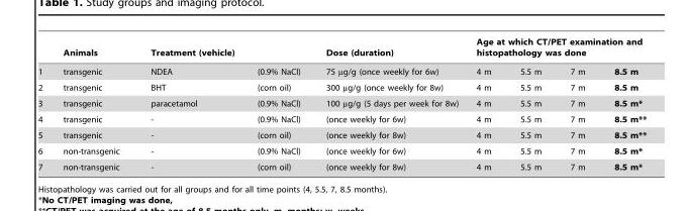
<table><thead><tr><td rowspan="2">1</td><td rowspan="2">Animals transgenic</td><td colspan="2">Treatment (vehicle)</td><td rowspan="2">Dose (duration) 75 µg/g (once weekly for 6w)</td><td colspan="4">Age at which CT/PET examination and histopathology was done</td></tr><tr><td>NDEA</td><td>(0.9% NaCl)</td><td>4 m</td><td>5.5 m</td><td>7 m</td><td>8.5 m</td></tr></thead><tbody><tr><td>2</td><td>transgenic</td><td>BHT</td><td>(corn oil)</td><td>300 µg/g (once weekly for 8w)</td><td>4 m</td><td>5.5 m</td><td>7 m</td><td>8.5 m</td></tr><tr><td>3</td><td>transgenic</td><td>paracetamol</td><td>(0.9% NaCl)</td><td>100 µg/g (5 days per week for 8w)</td><td>4 m</td><td>5.5 m</td><td>7 m</td><td>8.5 m*</td></tr><tr><td>4</td><td>transgenic</td><td>-</td><td>(0.9% NaCl)</td><td>(once weekly for 6w)</td><td>4 m</td><td>5.5 m</td><td>7 m</td><td>8.5 m**</td></tr><tr><td>5</td><td>transgenic</td><td>-</td><td>(corn oil)</td><td>(once weekly for 8w)</td><td>4 m</td><td>5.5 m</td><td>7 m</td><td>8.5 m**</td></tr><tr><td>6</td><td>non-transgenic</td><td>-</td><td>(0.9% NaCl)</td><td>(once weekly for 6w)</td><td>4 m</td><td>5.5 m</td><td>7 m</td><td>8.5 m*</td></tr><tr><td>7</td><td>non-transgenic</td><td>-</td><td>(corn oil)</td><td>(once weekly for 8w)</td><td>4 m</td><td>5.5 m</td><td>7 m</td><td>8.5 m*</td></tr></tbody></table>